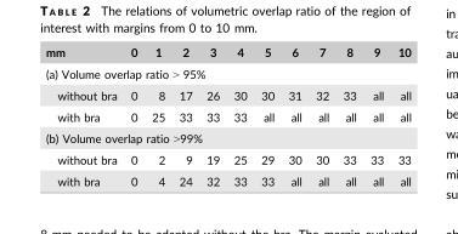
<table><thead><tr><td>mm</td><td>0</td><td>1</td><td>2</td><td>3</td><td>4</td><td>5</td><td>6</td><td>7</td><td>8</td><td>9</td><td>10</td></tr></thead><tbody><tr><td colspan="12">(a) Volume overlap ratio &gt; 95%</td></tr><tr><td>without bra</td><td>0</td><td>8</td><td>17</td><td>26</td><td>30</td><td>30</td><td>31</td><td>32</td><td>33</td><td>all</td><td>all</td></tr><tr><td>with bra</td><td>0</td><td>25</td><td>33</td><td>33</td><td>33</td><td>all</td><td>all</td><td>all</td><td>all</td><td>all</td><td>all</td></tr><tr><td colspan="12">(b) Volume overlap ratio &gt;99%</td></tr><tr><td>without bra</td><td>0</td><td>2</td><td>9</td><td>19</td><td>25</td><td>29</td><td>30</td><td>30</td><td>33</td><td>33</td><td>33</td></tr><tr><td>with bra</td><td>0</td><td>4</td><td>24</td><td>32</td><td>33</td><td>33</td><td>all</td><td>all</td><td>all</td><td>all</td><td>all</td></tr></tbody></table>